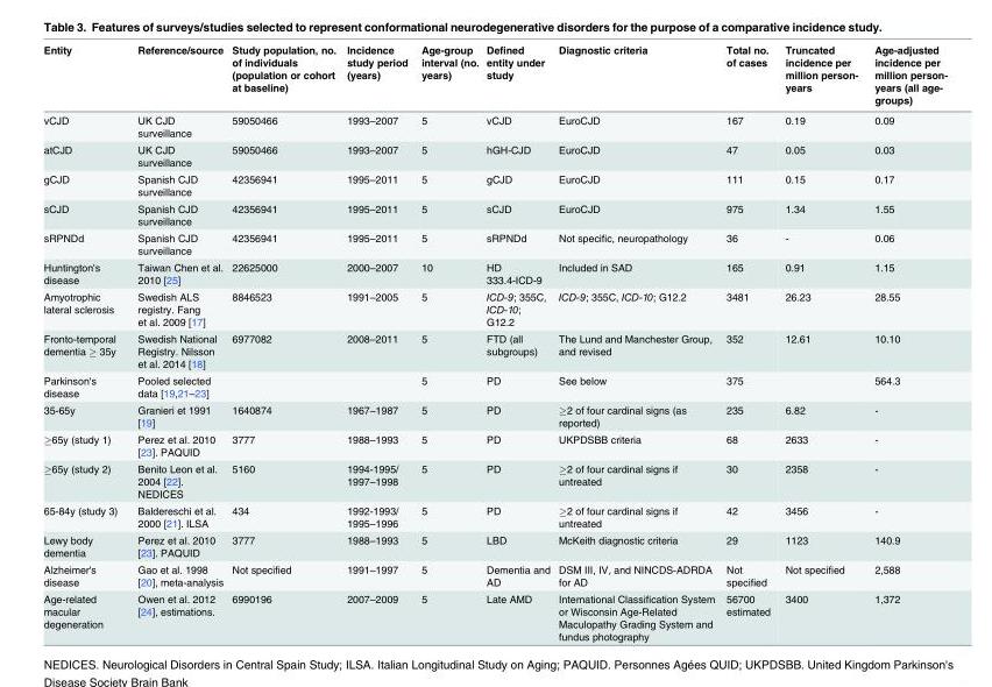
<table><thead><tr><td>Entity</td><td>Reference/source</td><td>Study population, no. of individuals (population or cohort at baseline)</td><td>Incidence study period (years)</td><td>Age-group interval (no. years)</td><td>Defined entity under study</td><td>Diagnostic criteria</td><td>Total no. of cases</td><td>Truncated incidence per million person- years</td><td>Age-adjusted incidence per million person- years (all age- groups)</td></tr></thead><tbody><tr><td>vCJD</td><td>UK CJD surveillance</td><td>59050466</td><td>1993–2007</td><td>5</td><td>vCJD</td><td>EuroCJD</td><td>167</td><td>0.19</td><td>0.09</td></tr><tr><td>atCJD</td><td>UK CJD surveillance</td><td>59050466</td><td>1993–2007</td><td>5</td><td>hGH-CJD</td><td>EuroCJD</td><td>47</td><td>0.05</td><td>0.03</td></tr><tr><td>gCJD</td><td>Spanish CJD surveillance</td><td>42356941</td><td>1995–2011</td><td>5</td><td>gCJD</td><td>EuroCJD</td><td>111</td><td>0.15</td><td>0.17</td></tr><tr><td>sCJD</td><td>Spanish CJD surveillance</td><td>42356941</td><td>1995–2011</td><td>5</td><td>sCJD</td><td>EuroCJD</td><td>975</td><td>1.34</td><td>1.55</td></tr><tr><td>sRPNDd</td><td>Spanish CJD surveillance</td><td>42356941</td><td>1995–2011</td><td>5</td><td>sRPNDd</td><td>Not specific, neuropathology</td><td>36</td><td>-</td><td>0.06</td></tr><tr><td>Huntington&#x27;s disease</td><td>Taiwan Chen et al. 2010 [25]</td><td>22625000</td><td>2000–2007</td><td>10</td><td>HD 333.4-ICD-9</td><td>Included in SAD</td><td>165</td><td>0.91</td><td>1.15</td></tr><tr><td>Amyotrophic lateral sclerosis</td><td>Swedish ALS registry. Fang et al. 2009 [17]</td><td>8846523</td><td>1991–2005</td><td>5</td><td>ICD-9; 355C, ICD-10; G12.2</td><td>ICD-9; 355C, ICD-10; G12.2</td><td>3481</td><td>26.23</td><td>28.55</td></tr><tr><td>Fronto-temporal dementia ≥ 35y</td><td>Swedish National Registry. Nilsson et al. 2014 [18]</td><td>6977082</td><td>2008–2011</td><td>5</td><td>FTD (all subgroups)</td><td>The Lund and Manchester Group, and revised</td><td>352</td><td>12.61</td><td>10.10</td></tr><tr><td>Parkinson&#x27;s disease</td><td>Pooled selected data [19,21–23]</td><td></td><td></td><td>5</td><td>PD</td><td>See below</td><td>375</td><td></td><td>564.3</td></tr><tr><td>35-65y</td><td>Granieri et 1991 [19]</td><td>1640874</td><td>1967–1987</td><td>5</td><td>PD</td><td>≥2 of four cardinal signs (as reported)</td><td>235</td><td>6.82</td><td>-</td></tr><tr><td>≥65y (study 1)</td><td>Perez et al. 2010 [23]. PAQUID</td><td>3777</td><td>1988–1993</td><td>5</td><td>PD</td><td>UKPDSBB criteria</td><td>68</td><td>2633</td><td>-</td></tr><tr><td>≥65y (study 2)</td><td>Benito Leon et al. 2004 [22]. NEDICES</td><td>5160</td><td>1994-1995/ 1997–1998</td><td>5</td><td>PD</td><td>≥2 of four cardinal signs if untreated</td><td>30</td><td>2358</td><td>-</td></tr><tr><td>65-84y (study 3)</td><td>Baldereschi et al. 2000 [21]. ILSA</td><td>434</td><td>1992-1993/ 1995–1996</td><td>5</td><td>PD</td><td>≥2 of four cardinal signs if untreated</td><td>42</td><td>3456</td><td>-</td></tr><tr><td>Lewy body dementia</td><td>Perez et al. 2010 [23]. PAQUID</td><td>3777</td><td>1988–1993</td><td>5</td><td>LBD</td><td>McKeith diagnostic criteria</td><td>29</td><td>1123</td><td>140.9</td></tr><tr><td>Alzheimer&#x27;s disease</td><td>Gao et al. 1998 [20], meta-analysis</td><td>Not specified</td><td>1991–1997</td><td>5</td><td>Dementia and AD</td><td>DSM III, IV, and NINCDS-ADRDA for AD</td><td>Not specified</td><td>Not specified</td><td>2,588</td></tr><tr><td>Age-related macular degeneration</td><td>Owen et al. 2012 [24], estimations.</td><td>6990196</td><td>2007–2009</td><td>5</td><td>Late AMD</td><td>International Classification System or Wisconsin Age-Related Maculopathy Grading System and fundus photography</td><td>56700 estimated</td><td>3400</td><td>1,372</td></tr></tbody></table>